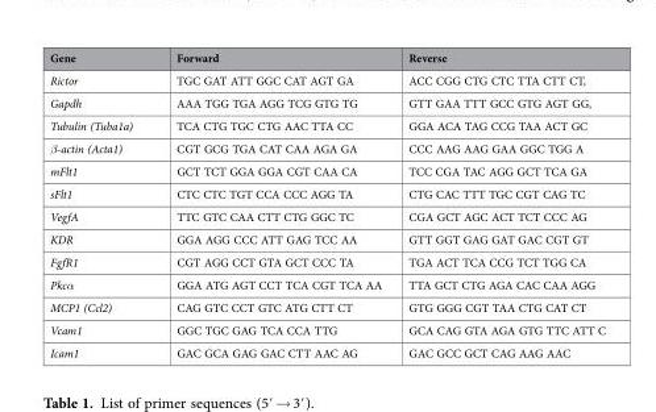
<table><thead><tr><td>Gene</td><td>Forward</td><td>Reverse</td></tr></thead><tbody><tr><td>Rictor</td><td>TGC GAT ATT GGC CAT AGT GA</td><td>ACC CGG CTG CTC TTA CTT CT,</td></tr><tr><td>Gapdh</td><td>AAA TGG TGA AGG TCG GTG TG</td><td>GTT GAA TTT GCC GTG AGT GG,</td></tr><tr><td>Tubulin (Tuba1a)</td><td>TCA CTG TGC CTG AAC TTA CC</td><td>GGA ACA TAG CCG TAA ACT GC</td></tr><tr><td>β-actin (Acta1)</td><td>CGT GCG TGA CAT CAA AGA GA</td><td>CCC AAG AAG GAA GGC TGG A</td></tr><tr><td>mFlt1</td><td>GCT TCT GGA GGA CGT CAA CA</td><td>TCC CGA TAC AGG GCT TCA GA</td></tr><tr><td>sFlt1</td><td>CTC CTC TGT CCA CCC AGG TA</td><td>CTG CAC TTT TGC CGT CAG TC</td></tr><tr><td>VegfA</td><td>TTC GTC CAA CTT CTG GGC TC</td><td>CGA GCT AGC ACT TCT CCC AG</td></tr><tr><td>KDR</td><td>GGA AGG CCC ATT GAG TCC AA</td><td>GTT GGT GAG GAT GAC CGT GT</td></tr><tr><td>FgfR1</td><td>CGT AGG CCT GTA GCT CCC TA</td><td>TGA ACT TCA CCG TCT TGG CA</td></tr><tr><td>Pkcα</td><td>GGA ATG AGT CCT TCA CGT TCA AA</td><td>TTA GCT CTG AGA CAC CAA AGG</td></tr><tr><td>MCP1 (Ccl2)</td><td>CAG GTC CCT GTC ATG CTT CT</td><td>GTG GGG CGT TAA CTG CAT CT</td></tr><tr><td>Vcam1</td><td>GGC TGC GAG TCA CCA TTG</td><td>GCA CAG GTA AGA GTG TTC ATT C</td></tr><tr><td>Icam1</td><td>GAC GCA GAG GAC CTT AAC AG</td><td>GAC GCC GCT CAG AAG AAC</td></tr></tbody></table>